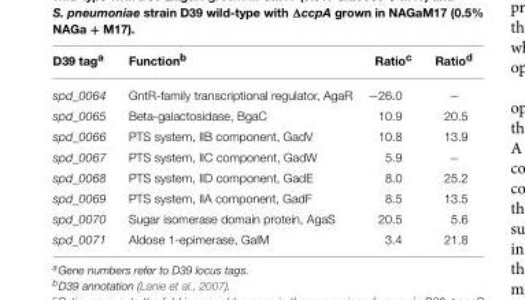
<table><thead><tr><td>D39 tag<sup>a</sup></td><td>Function<sup>b</sup></td><td>Ratio<sup>c</sup></td><td>Ratio<sup>d</sup></td></tr></thead><tbody><tr><td>spd_0064</td><td>GntR-family transcriptional regulator, AgaR</td><td>−26.0</td><td>−</td></tr><tr><td>spd_0065</td><td>Beta-galactosidase, BgaC</td><td>10.9</td><td>20.5</td></tr><tr><td>spd_0066</td><td>PTS system, IIB component, GadV</td><td>10.8</td><td>13.9</td></tr><tr><td>spd_0067</td><td>PTS system, IIC component, GadW</td><td>5.9</td><td>−</td></tr><tr><td>spd_0068</td><td>PTS system, IID component, GadE</td><td>8.0</td><td>25.2</td></tr><tr><td>spd_0069</td><td>PTS system, IIA component, GadF</td><td>8.5</td><td>13.5</td></tr><tr><td>spd_0070</td><td>Sugar isomerase domain protein, AgaS</td><td>20.5</td><td>5.6</td></tr><tr><td>spd_0071</td><td>Aldose 1-epimerase, GalM</td><td>3.4</td><td>21.8</td></tr></tbody></table>